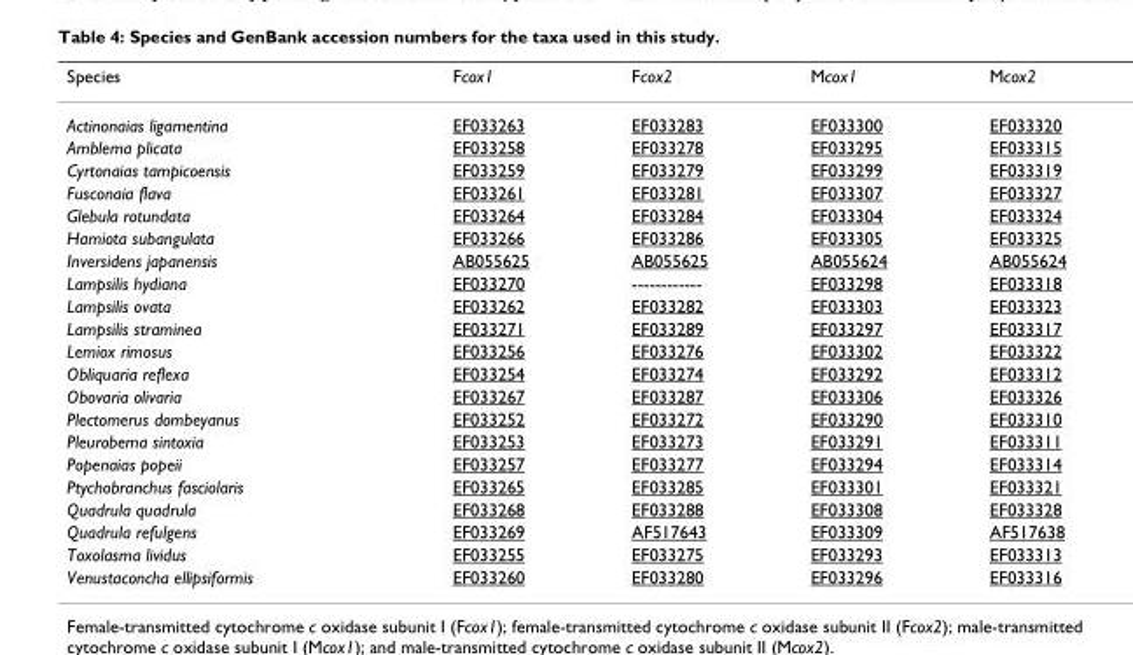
<table><thead><tr><td>Species</td><td>Fcox1</td><td>Fcox2</td><td>Mcox1</td><td>Mcox2</td></tr></thead><tbody><tr><td>Actinonaias ligamentina</td><td>EF033263</td><td>EF033283</td><td>EF033300</td><td>EF033320</td></tr><tr><td>Amblema plicata</td><td>EF033258</td><td>EF033278</td><td>EF033295</td><td>EF033315</td></tr><tr><td>Cyrtonaias tampicoensis</td><td>EF033259</td><td>EF033279</td><td>EF033299</td><td>EF033319</td></tr><tr><td>Fusconaia flava</td><td>EF033261</td><td>EF033281</td><td>EF033307</td><td>EF033327</td></tr><tr><td>Glebula rotundata</td><td>EF033264</td><td>EF033284</td><td>EF033304</td><td>EF033324</td></tr><tr><td>Hamiota subangulata</td><td>EF033266</td><td>EF033286</td><td>EF033305</td><td>EF033325</td></tr><tr><td>Inversidens japanensis</td><td>AB055625</td><td>AB055625</td><td>AB055624</td><td>AB055624</td></tr><tr><td>Lampsilis hydiana</td><td>EF033270</td><td>------------</td><td>EF033298</td><td>EF033318</td></tr><tr><td>Lampsilis ovata</td><td>EF033262</td><td>EF033282</td><td>EF033303</td><td>EF033323</td></tr><tr><td>Lampsilis straminea</td><td>EF033271</td><td>EF033289</td><td>EF033297</td><td>EF033317</td></tr><tr><td>Lemiox rimosus</td><td>EF033256</td><td>EF033276</td><td>EF033302</td><td>EF033322</td></tr><tr><td>Obliquaria reflexa</td><td>EF033254</td><td>EF033274</td><td>EF033292</td><td>EF033312</td></tr><tr><td>Obovaria olivaria</td><td>EF033267</td><td>EF033287</td><td>EF033306</td><td>EF033326</td></tr><tr><td>Plectomerus dombeyanus</td><td>EF033252</td><td>EF033272</td><td>EF033290</td><td>EF033310</td></tr><tr><td>Pleurobema sintoxia</td><td>EF033253</td><td>EF033273</td><td>EF033291</td><td>EF033311</td></tr><tr><td>Popenaias popeii</td><td>EF033257</td><td>EF033277</td><td>EF033294</td><td>EF033314</td></tr><tr><td>Ptychobranchus fasciolaris</td><td>EF033265</td><td>EF033285</td><td>EF033301</td><td>EF033321</td></tr><tr><td>Quadrula quadrula</td><td>EF033268</td><td>EF033288</td><td>EF033308</td><td>EF033328</td></tr><tr><td>Quadrula refulgens</td><td>EF033269</td><td>AF517643</td><td>EF033309</td><td>AF517638</td></tr><tr><td>Toxolasma lividus</td><td>EF033255</td><td>EF033275</td><td>EF033293</td><td>EF033313</td></tr><tr><td>Venustaconcha ellipsiformis</td><td>EF033260</td><td>EF033280</td><td>EF033296</td><td>EF033316</td></tr></tbody></table>